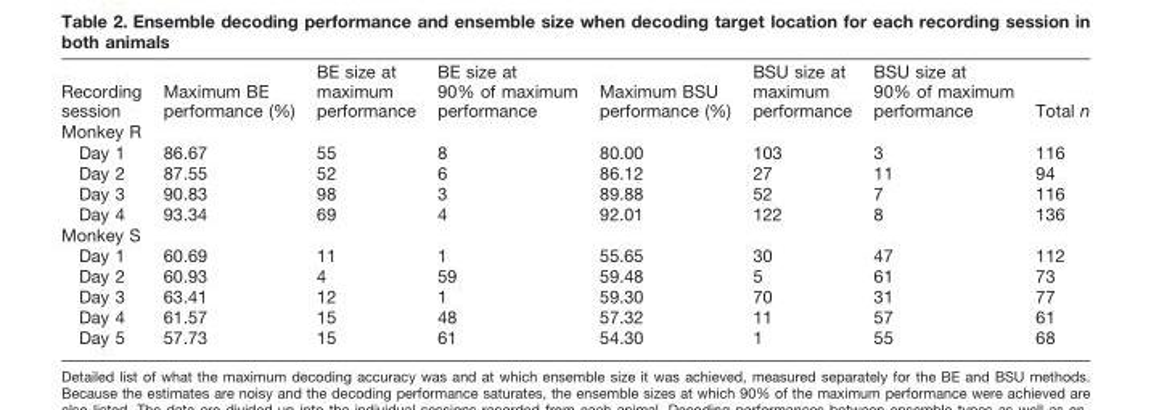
<table><thead><tr><td>Recording session</td><td>Maximum BE performance (%)</td><td>BE size at maximum performance</td><td>BE size at 90% of maximum performance</td><td>Maximum BSU performance (%)</td><td>BSU size at maximum performance</td><td>BSU size at 90% of maximum performance</td><td>Total n</td></tr></thead><tbody><tr><td colspan="8">Monkey R</td></tr><tr><td>Day 1</td><td>86.67</td><td>55</td><td>8</td><td>80.00</td><td>103</td><td>3</td><td>116</td></tr><tr><td>Day 2</td><td>87.55</td><td>52</td><td>6</td><td>86.12</td><td>27</td><td>11</td><td>94</td></tr><tr><td>Day 3</td><td>90.83</td><td>98</td><td>3</td><td>89.88</td><td>52</td><td>7</td><td>116</td></tr><tr><td>Day 4</td><td>93.34</td><td>69</td><td>4</td><td>92.01</td><td>122</td><td>8</td><td>136</td></tr><tr><td colspan="8">Monkey S</td></tr><tr><td>Day 1</td><td>60.69</td><td>11</td><td>1</td><td>55.65</td><td>30</td><td>47</td><td>112</td></tr><tr><td>Day 2</td><td>60.93</td><td>4</td><td>59</td><td>59.48</td><td>5</td><td>61</td><td>73</td></tr><tr><td>Day 3</td><td>63.41</td><td>12</td><td>1</td><td>59.30</td><td>70</td><td>31</td><td>77</td></tr><tr><td>Day 4</td><td>61.57</td><td>15</td><td>48</td><td>57.32</td><td>11</td><td>57</td><td>61</td></tr><tr><td>Day 5</td><td>57.73</td><td>15</td><td>61</td><td>54.30</td><td>1</td><td>55</td><td>68</td></tr></tbody></table>